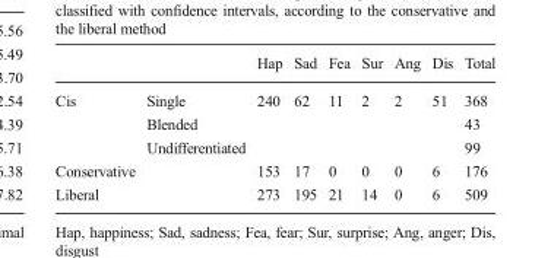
<table><thead><tr><td></td><td></td><td>Hap</td><td>Sad</td><td>Fea</td><td>Sur</td><td>Ang</td><td>Dis</td><td>Total</td></tr></thead><tbody><tr><td rowspan="3">Cis</td><td>Single</td><td>240</td><td>62</td><td>11</td><td>2</td><td>2</td><td>51</td><td>368</td></tr><tr><td>Blended</td><td></td><td></td><td></td><td></td><td></td><td></td><td>43</td></tr><tr><td>Undifferentiated</td><td></td><td></td><td></td><td></td><td></td><td></td><td>99</td></tr><tr><td>Conservative</td><td></td><td>153</td><td>17</td><td>0</td><td>0</td><td>0</td><td>6</td><td>176</td></tr><tr><td>Liberal</td><td></td><td>273</td><td>195</td><td>21</td><td>14</td><td>0</td><td>6</td><td>509</td></tr></tbody></table>